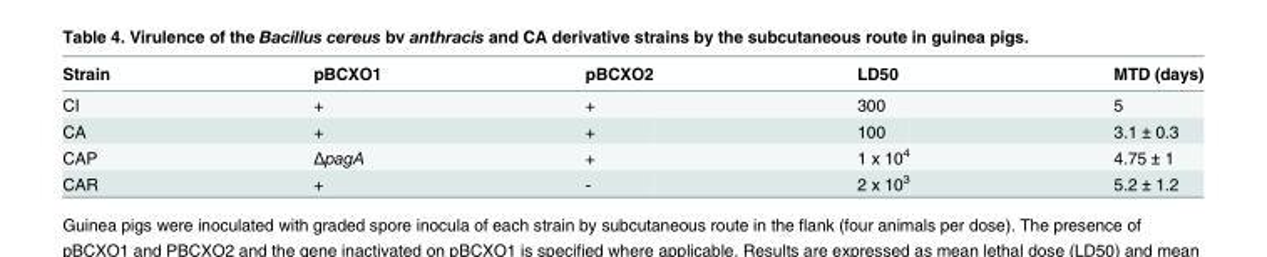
<table><thead><tr><td>Strain</td><td>pBCXO1</td><td>pBCXO2</td><td>LD50</td><td>MTD (days)</td></tr></thead><tbody><tr><td>CI</td><td>+</td><td>+</td><td>300</td><td>5</td></tr><tr><td>CA</td><td>+</td><td>+</td><td>100</td><td>3.1 ± 0.3</td></tr><tr><td>CAP</td><td>ΔpagA</td><td>+</td><td>1 x 10<sup>4</sup></td><td>4.75 ± 1</td></tr><tr><td>CAR</td><td>+</td><td>-</td><td>2 x 10<sup>3</sup></td><td>5.2 ± 1.2</td></tr></tbody></table>